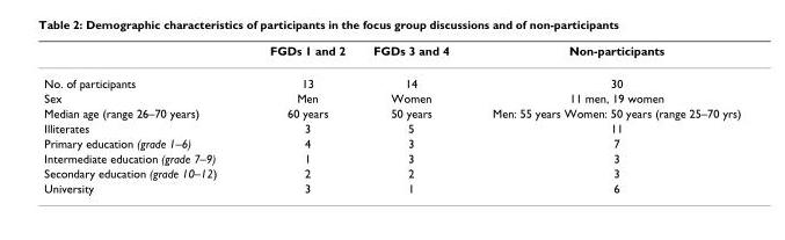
<table><thead><tr><td></td><td>FGDs 1 and 2</td><td>FGDs 3 and 4</td><td>Non-participants</td></tr></thead><tbody><tr><td>No. of participants</td><td>13</td><td>14</td><td>30</td></tr><tr><td>Sex</td><td>Men</td><td>Women</td><td>11 men, 19 women</td></tr><tr><td>Median age (range 26–70 years)</td><td>60 years</td><td>50 years</td><td>Men: 55 years Women: 50 years (range 25–70 yrs)</td></tr><tr><td>Illiterates</td><td>3</td><td>5</td><td>11</td></tr><tr><td>Primary education (grade 1–6)</td><td>4</td><td>3</td><td>7</td></tr><tr><td>Intermediate education (grade 7–9)</td><td>1</td><td>3</td><td>3</td></tr><tr><td>Secondary education (grade 10–12)</td><td>2</td><td>2</td><td>3</td></tr><tr><td>University</td><td>3</td><td>1</td><td>6</td></tr></tbody></table>